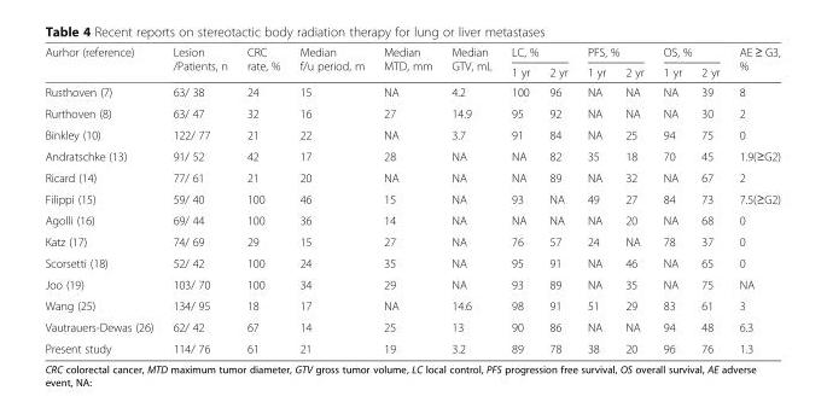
<table><thead><tr><td rowspan="2">Aurhor (reference)</td><td rowspan="2">Lesion /Patients, n</td><td rowspan="2">CRC rate, %</td><td rowspan="2">Median f/u period, m</td><td rowspan="2">Median MTD, mm</td><td rowspan="2">Median GTV, mL</td><td colspan="2">LC, %</td><td colspan="2">PFS, %</td><td colspan="2">OS, %</td><td rowspan="2">AE ≥ G3, %</td></tr><tr><td>1 yr</td><td>2 yr</td><td>1 yr</td><td>2 yr</td><td>1 yr</td><td>2 yr</td></tr></thead><tbody><tr><td>Rusthoven (7)</td><td>63/ 38</td><td>24</td><td>15</td><td>NA</td><td>4.2</td><td>100</td><td>96</td><td>NA</td><td>NA</td><td>NA</td><td>39</td><td>8</td></tr><tr><td>Rurthoven (8)</td><td>63/ 47</td><td>32</td><td>16</td><td>27</td><td>14.9</td><td>95</td><td>92</td><td>NA</td><td>NA</td><td>NA</td><td>30</td><td>2</td></tr><tr><td>Binkley (10)</td><td>122/ 77</td><td>21</td><td>22</td><td>NA</td><td>3.7</td><td>91</td><td>84</td><td>NA</td><td>25</td><td>94</td><td>75</td><td>0</td></tr><tr><td>Andratschke (13)</td><td>91/ 52</td><td>42</td><td>17</td><td>28</td><td>NA</td><td>NA</td><td>82</td><td>35</td><td>18</td><td>70</td><td>45</td><td>1.9(≥G2)</td></tr><tr><td>Ricard (14)</td><td>77/ 61</td><td>21</td><td>20</td><td>NA</td><td>NA</td><td>NA</td><td>89</td><td>NA</td><td>32</td><td>NA</td><td>67</td><td>2</td></tr><tr><td>Filippi (15)</td><td>59/ 40</td><td>100</td><td>46</td><td>15</td><td>NA</td><td>93</td><td>NA</td><td>49</td><td>27</td><td>84</td><td>73</td><td>7.5(≥G2)</td></tr><tr><td>Agolli (16)</td><td>69/ 44</td><td>100</td><td>36</td><td>14</td><td>NA</td><td>NA</td><td>NA</td><td>NA</td><td>20</td><td>NA</td><td>68</td><td>0</td></tr><tr><td>Katz (17)</td><td>74/ 69</td><td>29</td><td>15</td><td>27</td><td>NA</td><td>76</td><td>57</td><td>24</td><td>NA</td><td>78</td><td>37</td><td>0</td></tr><tr><td>Scorsetti (18)</td><td>52/ 42</td><td>100</td><td>24</td><td>35</td><td>NA</td><td>95</td><td>91</td><td>NA</td><td>46</td><td>NA</td><td>65</td><td>0</td></tr><tr><td>Joo (19)</td><td>103/ 70</td><td>100</td><td>34</td><td>29</td><td>NA</td><td>93</td><td>89</td><td>NA</td><td>35</td><td>NA</td><td>75</td><td>NA</td></tr><tr><td>Wang (25)</td><td>134/ 95</td><td>18</td><td>17</td><td>NA</td><td>14.6</td><td>98</td><td>91</td><td>51</td><td>29</td><td>83</td><td>61</td><td>3</td></tr><tr><td>Vautrauers-Dewas (26)</td><td>62/ 42</td><td>67</td><td>14</td><td>25</td><td>13</td><td>90</td><td>86</td><td>NA</td><td>NA</td><td>94</td><td>48</td><td>6.3</td></tr><tr><td>Present study</td><td>114/ 76</td><td>61</td><td>21</td><td>19</td><td>3.2</td><td>89</td><td>78</td><td>38</td><td>20</td><td>96</td><td>76</td><td>1.3</td></tr></tbody></table>